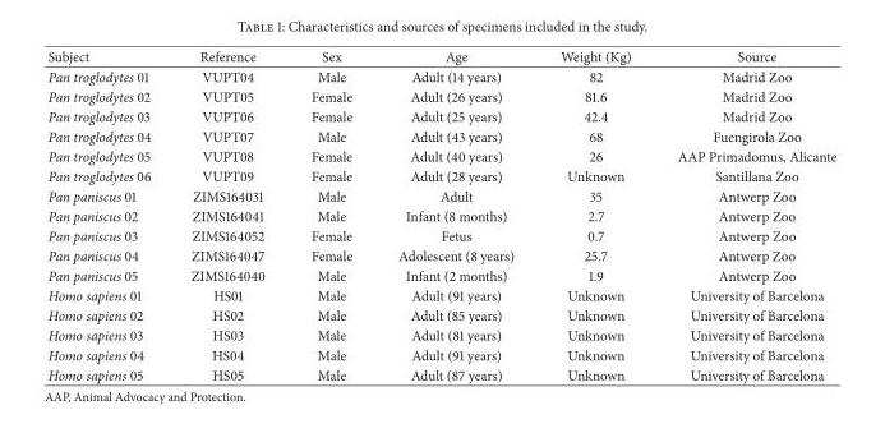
<table><thead><tr><td>Subject</td><td>Reference</td><td>Sex</td><td>Age</td><td>Weight (Kg)</td><td>Source</td></tr></thead><tbody><tr><td>Pan troglodytes 01</td><td>VUPT04</td><td>Male</td><td>Adult (14 years)</td><td>82</td><td>Madrid Zoo</td></tr><tr><td>Pan troglodytes 02</td><td>VUPT05</td><td>Female</td><td>Adult (26 years)</td><td>81.6</td><td>Madrid Zoo</td></tr><tr><td>Pan troglodytes 03</td><td>VUPT06</td><td>Female</td><td>Adult (25 years)</td><td>42.4</td><td>Madrid Zoo</td></tr><tr><td>Pan troglodytes 04</td><td>VUPT07</td><td>Male</td><td>Adult (43 years)</td><td>68</td><td>Fuengirola Zoo</td></tr><tr><td>Pan troglodytes 05</td><td>VUPT08</td><td>Female</td><td>Adult (40 years)</td><td>26</td><td>AAP Primadomus, Alicante</td></tr><tr><td>Pan troglodytes 06</td><td>VUPT09</td><td>Female</td><td>Adult (28 years)</td><td>Unknown</td><td>Santillana Zoo</td></tr><tr><td>Pan paniscus 01</td><td>ZIMS164031</td><td>Male</td><td>Adult</td><td>35</td><td>Antwerp Zoo</td></tr><tr><td>Pan paniscus 02</td><td>ZIMS164041</td><td>Male</td><td>Infant (8 months)</td><td>2.7</td><td>Antwerp Zoo</td></tr><tr><td>Pan paniscus 03</td><td>ZIMS164052</td><td>Female</td><td>Fetus</td><td>0.7</td><td>Antwerp Zoo</td></tr><tr><td>Pan paniscus 04</td><td>ZIMS164047</td><td>Female</td><td>Adolescent (8 years)</td><td>25.7</td><td>Antwerp Zoo</td></tr><tr><td>Pan paniscus 05</td><td>ZIMS164040</td><td>Male</td><td>Infant (2 months)</td><td>1.9</td><td>Antwerp Zoo</td></tr><tr><td>Homo sapiens 01</td><td>HS01</td><td>Male</td><td>Adult (91 years)</td><td>Unknown</td><td>University of Barcelona</td></tr><tr><td>Homo sapiens 02</td><td>HS02</td><td>Male</td><td>Adult (85 years)</td><td>Unknown</td><td>University of Barcelona</td></tr><tr><td>Homo sapiens 03</td><td>HS03</td><td>Male</td><td>Adult (81 years)</td><td>Unknown</td><td>University of Barcelona</td></tr><tr><td>Homo sapiens 04</td><td>HS04</td><td>Male</td><td>Adult (91 years)</td><td>Unknown</td><td>University of Barcelona</td></tr><tr><td>Homo sapiens 05</td><td>HS05</td><td>Male</td><td>Adult (87 years)</td><td>Unknown</td><td>University of Barcelona</td></tr></tbody></table>